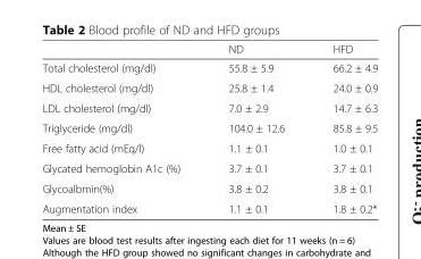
<table><thead><tr><td></td><td>ND</td><td>HFD</td></tr></thead><tbody><tr><td>Total cholesterol (mg/dl)</td><td>55.8 ± 5.9</td><td>66.2 ± 4.9</td></tr><tr><td>HDL cholesterol (mg/dl)</td><td>25.8 ± 1.4</td><td>24.0 ± 0.9</td></tr><tr><td>LDL cholesterol (mg/dl)</td><td>7.0 ± 2.9</td><td>14.7 ± 6.3</td></tr><tr><td>Triglyceride (mg/dl)</td><td>104.0 ± 12.6</td><td>85.8 ± 9.5</td></tr><tr><td>Free fatty acid (mEq/l)</td><td>1.1 ± 0.1</td><td>1.0 ± 0.1</td></tr><tr><td>Glycated hemoglobin A1c (%)</td><td>3.7 ± 0.1</td><td>3.7 ± 0.1</td></tr><tr><td>Glycoalbmin(%)</td><td>3.8 ± 0.2</td><td>3.8 ± 0.1</td></tr><tr><td>Augmentation index</td><td>1.1 ± 0.1</td><td>1.8 ± 0.2*</td></tr></tbody></table>